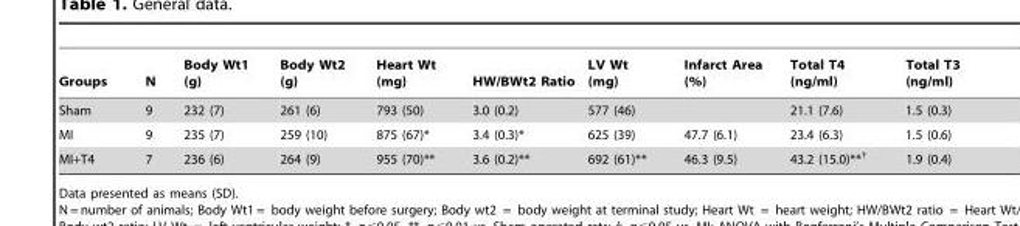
<table><thead><tr><td>Groups</td><td>N</td><td>Body Wt1 (g)</td><td>Body Wt2 (g)</td><td>Heart Wt (mg)</td><td>HW/BWt2 Ratio</td><td>LV Wt (mg)</td><td>Infarct Area (%)</td><td>Total T4 (ng/ml)</td><td>Total T3 (ng/ml)</td></tr></thead><tbody><tr><td>Sham</td><td>9</td><td>232 (7)</td><td>261 (6)</td><td>793 (50)</td><td>3.0 (0.2)</td><td>577 (46)</td><td></td><td>21.1 (7.6)</td><td>1.5 (0.3)</td></tr><tr><td>MI</td><td>9</td><td>235 (7)</td><td>259 (10)</td><td>875 (67)*</td><td>3.4 (0.3)*</td><td>625 (39)</td><td>47.7 (6.1)</td><td>23.4 (6.3)</td><td>1.5 (0.6)</td></tr><tr><td>MI+T4</td><td>7</td><td>236 (6)</td><td>264 (9)</td><td>955 (70)**</td><td>3.6 (0.2)**</td><td>692 (61)**</td><td>46.3 (9.5)</td><td>43.2 (15.0)**<sup>†</sup></td><td>1.9 (0.4)</td></tr></tbody></table>